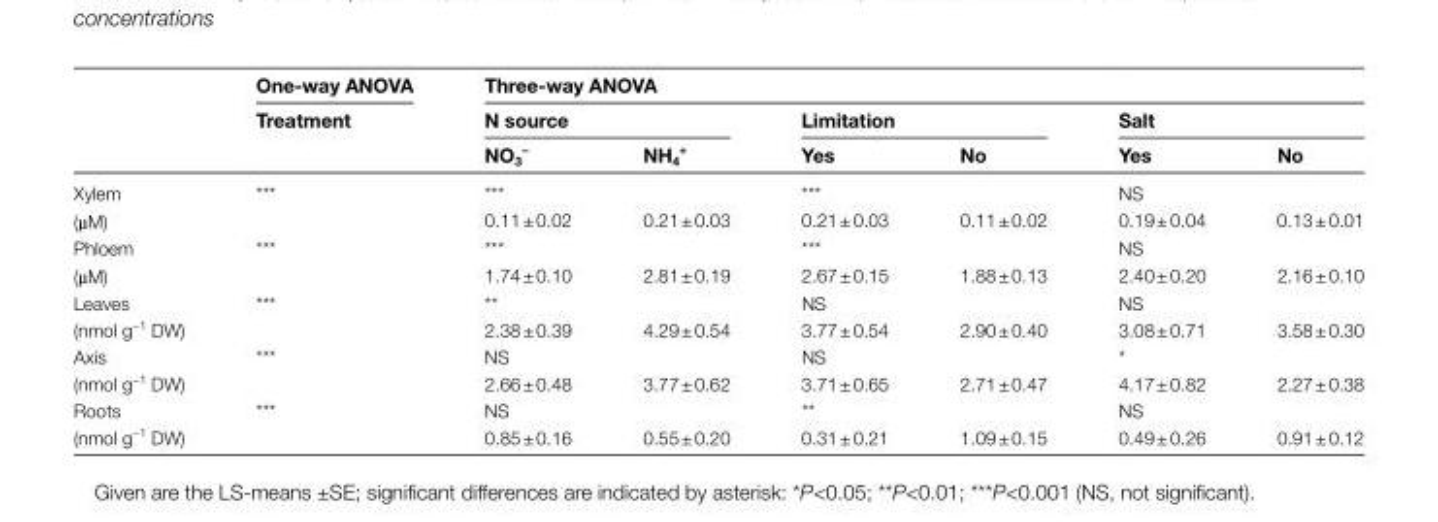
<table><thead><tr><td rowspan="3"></td><td rowspan="3">One-way ANOVA Treatment</td><td colspan="6">Three-way ANOVA</td></tr><tr><td colspan="2">N source</td><td colspan="2">Limitation</td><td colspan="2">Salt</td></tr><tr><td>NO<sub>3</sub> <sup>−</sup></td><td>NH<sub>4</sub> <sup>+</sup></td><td>Yes</td><td>No</td><td>Yes</td><td>No</td></tr></thead><tbody><tr><td>Xylem</td><td>***</td><td colspan="2">***</td><td colspan="2">***</td><td colspan="2">NS</td></tr><tr><td>(µM)</td><td></td><td>0.11 ± 0.02</td><td>0.21 ± 0.03</td><td>0.21 ± 0.03</td><td>0.11 ± 0.02</td><td>0.19 ± 0.04</td><td>0.13 ± 0.01</td></tr><tr><td>Phloem</td><td>***</td><td colspan="2">***</td><td colspan="2">***</td><td colspan="2">NS</td></tr><tr><td>(µM)</td><td></td><td>1.74 ± 0.10</td><td>2.81 ± 0.19</td><td>2.67 ± 0.15</td><td>1.88 ± 0.13</td><td>2.40 ± 0.20</td><td>2.16 ± 0.10</td></tr><tr><td>Leaves</td><td>***</td><td colspan="2">**</td><td colspan="2">NS</td><td colspan="2">NS</td></tr><tr><td>(nmol g<sup>−1</sup> DW)</td><td></td><td>2.38 ± 0.39</td><td>4.29 ± 0.54</td><td>3.77 ± 0.54</td><td>2.90 ± 0.40</td><td>3.08 ± 0.71</td><td>3.58 ± 0.30</td></tr><tr><td>Axis</td><td>***</td><td colspan="2">NS</td><td colspan="2">NS</td><td colspan="2">*</td></tr><tr><td>(nmol g<sup>−1</sup> DW)</td><td></td><td>2.66 ± 0.48</td><td>3.77 ± 0.62</td><td>3.71 ± 0.65</td><td>2.71 ± 0.47</td><td>4.17 ± 0.82</td><td>2.27 ± 0.38</td></tr><tr><td>Roots</td><td>***</td><td colspan="2">NS</td><td colspan="2">**</td><td colspan="2">NS</td></tr><tr><td>(nmol g<sup>−1</sup> DW)</td><td></td><td>0.85 ± 0.16</td><td>0.55 ± 0.20</td><td>0.31 ± 0.21</td><td>1.09 ± 0.15</td><td>0.49 ± 0.26</td><td>0.91 ± 0.12</td></tr></tbody></table>